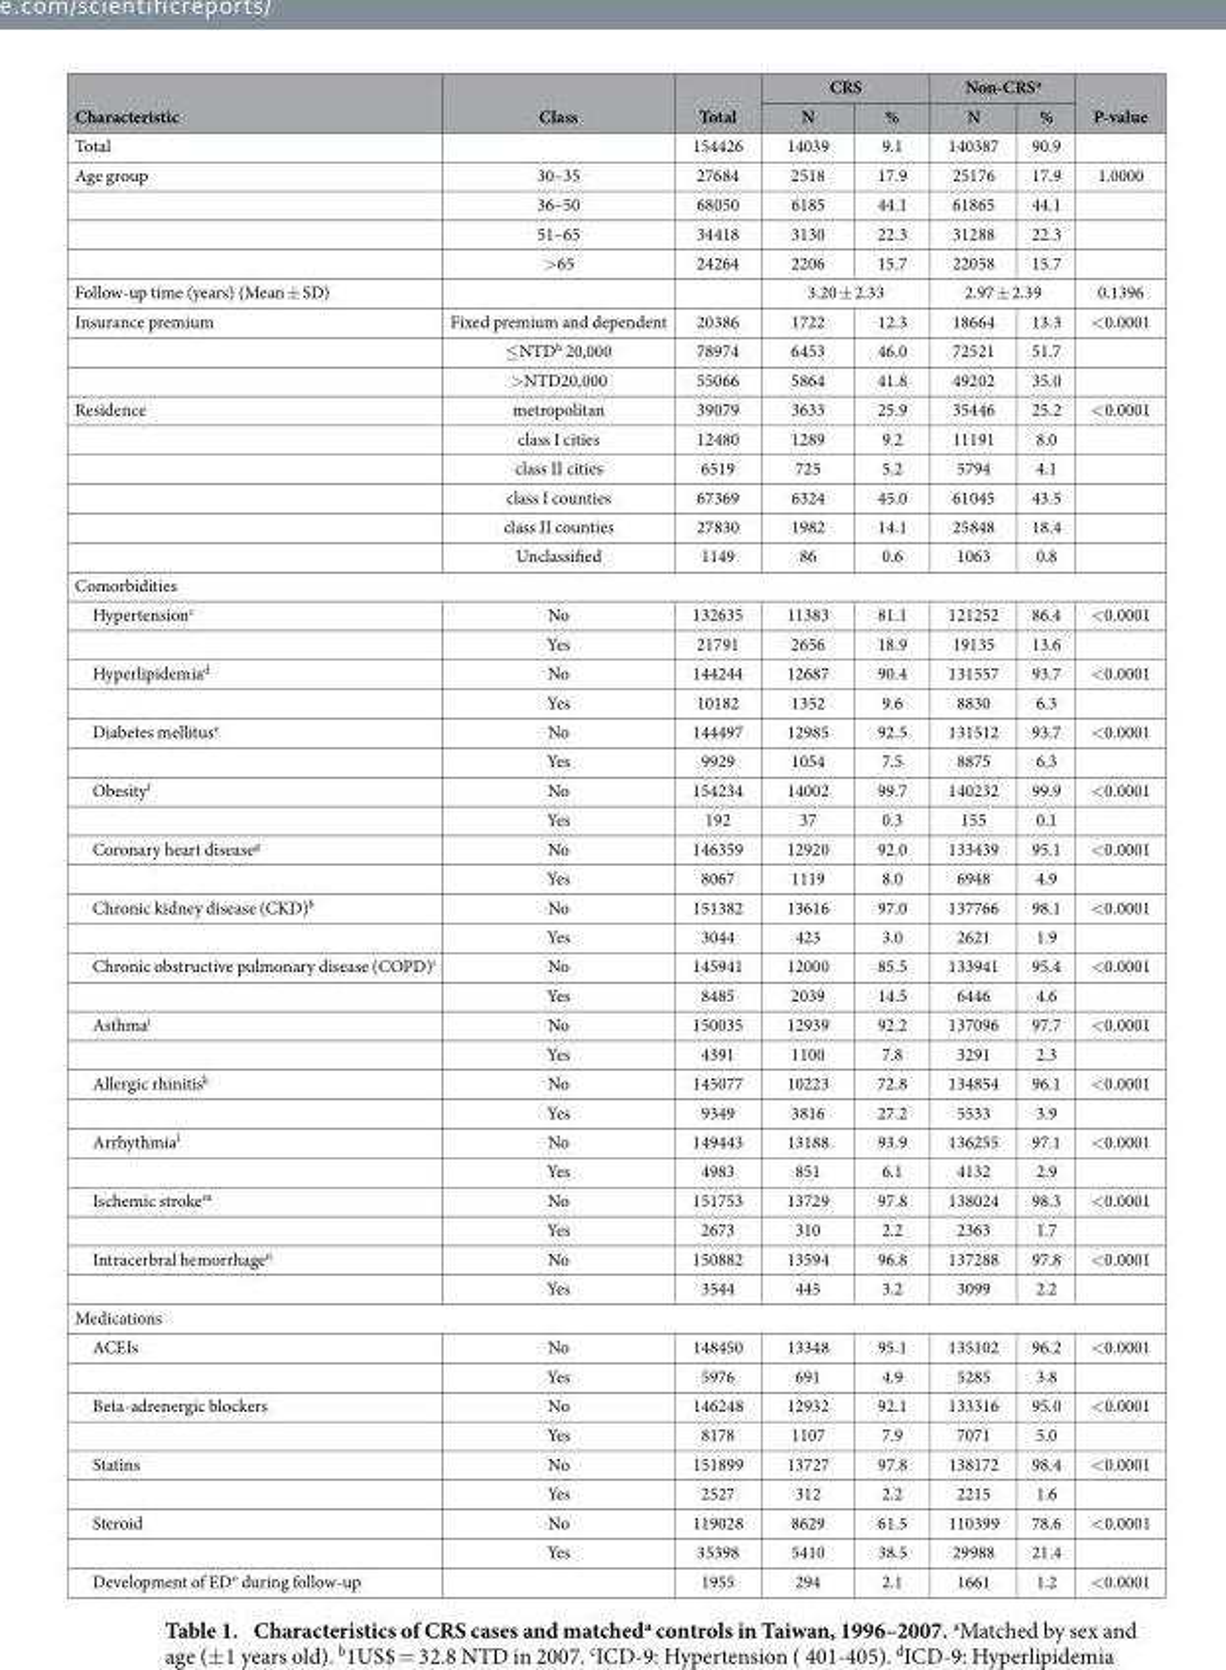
<table><thead><tr><td rowspan="2">Characteristic</td><td rowspan="2">Class</td><td rowspan="2">Total</td><td colspan="2">CRS</td><td colspan="2">Non-CRS<sup>a</sup></td><td rowspan="2">P-value</td></tr><tr><td>N</td><td>%</td><td>N</td><td>%</td></tr></thead><tbody><tr><td>Total</td><td></td><td>154426</td><td>14039</td><td>9.1</td><td>140387</td><td>90.9</td><td></td></tr><tr><td rowspan="4">Age group</td><td>30–35</td><td>27684</td><td>2518</td><td>17.9</td><td>25176</td><td>17.9</td><td>1.0000</td></tr><tr><td>36–50</td><td>68050</td><td>6185</td><td>44.1</td><td>61865</td><td>44.1</td><td></td></tr><tr><td>51–65</td><td>34418</td><td>3130</td><td>22.3</td><td>31288</td><td>22.3</td><td></td></tr><tr><td>&gt; 65</td><td>24264</td><td>2206</td><td>15.7</td><td>22058</td><td>15.7</td><td></td></tr><tr><td>Follow-up time (years) (Mean ± SD)</td><td></td><td></td><td colspan="2">3.20 ± 2.33</td><td colspan="2">2.97 ± 2.39</td><td>0.1396</td></tr><tr><td rowspan="3">Insurance premium</td><td>Fixed premium and dependent</td><td>20386</td><td>1722</td><td>12.3</td><td>18664</td><td>13.3</td><td>&lt; 0.0001</td></tr><tr><td>≤ NTD<sup>b</sup> 20,000</td><td>78974</td><td>6453</td><td>46.0</td><td>72521</td><td>51.7</td><td></td></tr><tr><td>&gt; NTD20,000</td><td>55066</td><td>5864</td><td>41.8</td><td>49202</td><td>35.0</td><td></td></tr><tr><td rowspan="6">Residence</td><td>metropolitan</td><td>39079</td><td>3633</td><td>25.9</td><td>35446</td><td>25.2</td><td>&lt; 0.0001</td></tr><tr><td>class I cities</td><td>12480</td><td>1289</td><td>9.2</td><td>11191</td><td>8.0</td><td></td></tr><tr><td>class II cities</td><td>6519</td><td>725</td><td>5.2</td><td>5794</td><td>4.1</td><td></td></tr><tr><td>class I counties</td><td>67369</td><td>6324</td><td>45.0</td><td>61045</td><td>43.5</td><td></td></tr><tr><td>class II counties</td><td>27830</td><td>1982</td><td>14.1</td><td>25848</td><td>18.4</td><td></td></tr><tr><td>Unclassified</td><td>1149</td><td>86</td><td>0.6</td><td>1063</td><td>0.8</td><td></td></tr><tr><td colspan="8">Comorbidities</td></tr><tr><td rowspan="2">Hypertension<sup>c</sup></td><td>No</td><td>132635</td><td>11383</td><td>81.1</td><td>121252</td><td>86.4</td><td>&lt; 0.0001</td></tr><tr><td>Yes</td><td>21791</td><td>2656</td><td>18.9</td><td>19135</td><td>13.6</td><td></td></tr><tr><td rowspan="2">Hyperlipidemia<sup>d</sup></td><td>No</td><td>144244</td><td>12687</td><td>90.4</td><td>131557</td><td>93.7</td><td>&lt; 0.0001</td></tr><tr><td>Yes</td><td>10182</td><td>1352</td><td>9.6</td><td>8830</td><td>6.3</td><td></td></tr><tr><td rowspan="2">Diabetes mellitus<sup>e</sup></td><td>No</td><td>144497</td><td>12985</td><td>92.5</td><td>131512</td><td>93.7</td><td>&lt; 0.0001</td></tr><tr><td>Yes</td><td>9929</td><td>1054</td><td>7.5</td><td>8875</td><td>6.3</td><td></td></tr><tr><td rowspan="2">Obesity<sup>f</sup></td><td>No</td><td>154234</td><td>14002</td><td>99.7</td><td>140232</td><td>99.9</td><td>&lt; 0.0001</td></tr><tr><td>Yes</td><td>192</td><td>37</td><td>0.3</td><td>155</td><td>0.1</td><td></td></tr><tr><td rowspan="2">Coronary heart disease<sup>g</sup></td><td>No</td><td>146359</td><td>12920</td><td>92.0</td><td>133439</td><td>95.1</td><td>&lt; 0.0001</td></tr><tr><td>Yes</td><td>8067</td><td>1119</td><td>8.0</td><td>6948</td><td>4.9</td><td></td></tr><tr><td rowspan="2">Chronic kidney disease (CKD)<sup>h</sup></td><td>No</td><td>151382</td><td>13616</td><td>97.0</td><td>137766</td><td>98.1</td><td>&lt; 0.0001</td></tr><tr><td>Yes</td><td>3044</td><td>423</td><td>3.0</td><td>2621</td><td>1.9</td><td></td></tr><tr><td rowspan="2">Chronic obstructive pulmonary disease (COPD)<sup>i</sup></td><td>No</td><td>145941</td><td>12000</td><td>85.5</td><td>133941</td><td>95.4</td><td>&lt; 0.0001</td></tr><tr><td>Yes</td><td>8485</td><td>2039</td><td>14.5</td><td>6446</td><td>4.6</td><td></td></tr><tr><td rowspan="2">Asthma<sup>j</sup></td><td>No</td><td>150035</td><td>12939</td><td>92.2</td><td>137096</td><td>97.7</td><td>&lt; 0.0001</td></tr><tr><td>Yes</td><td>4391</td><td>1100</td><td>7.8</td><td>3291</td><td>2.3</td><td></td></tr><tr><td rowspan="2">Allergic rhinitisk</td><td>No</td><td>145077</td><td>10223</td><td>72.8</td><td>134854</td><td>96.1</td><td>&lt; 0.0001</td></tr><tr><td>Yes</td><td>9349</td><td>3816</td><td>27.2</td><td>5533</td><td>3.9</td><td></td></tr><tr><td rowspan="2">Arrhythmia<sup>l</sup></td><td>No</td><td>149443</td><td>13188</td><td>93.9</td><td>136255</td><td>97.1</td><td>&lt; 0.0001</td></tr><tr><td>Yes</td><td>4983</td><td>851</td><td>6.1</td><td>4132</td><td>2.9</td><td></td></tr><tr><td rowspan="2">Ischemic stroke<sup>m</sup></td><td>No</td><td>151753</td><td>13729</td><td>97.8</td><td>138024</td><td>98.3</td><td>&lt; 0.0001</td></tr><tr><td>Yes</td><td>2673</td><td>310</td><td>2.2</td><td>2363</td><td>1.7</td><td></td></tr><tr><td rowspan="2">Intracerbral hemorrhage<sup>n</sup></td><td>No</td><td>150882</td><td>13594</td><td>96.8</td><td>137288</td><td>97.8</td><td>&lt; 0.0001</td></tr><tr><td>Yes</td><td>3544</td><td>445</td><td>3.2</td><td>3099</td><td>2.2</td><td></td></tr><tr><td colspan="8">Medications</td></tr><tr><td rowspan="2">ACEIs</td><td>No</td><td>148450</td><td>13348</td><td>95.1</td><td>135102</td><td>96.2</td><td>&lt; 0.0001</td></tr><tr><td>Yes</td><td>5976</td><td>691</td><td>4.9</td><td>5285</td><td>3.8</td><td></td></tr><tr><td rowspan="2">Beta-adrenergic blockers</td><td>No</td><td>146248</td><td>12932</td><td>92.1</td><td>133316</td><td>95.0</td><td>&lt; 0.0001</td></tr><tr><td>Yes</td><td>8178</td><td>1107</td><td>7.9</td><td>7071</td><td>5.0</td><td></td></tr><tr><td rowspan="2">Statins</td><td>No</td><td>151899</td><td>13727</td><td>97.8</td><td>138172</td><td>98.4</td><td>&lt; 0.0001</td></tr><tr><td>Yes</td><td>2527</td><td>312</td><td>2.2</td><td>2215</td><td>1.6</td><td></td></tr><tr><td rowspan="2">Steroid</td><td>No</td><td>119028</td><td>8629</td><td>61.5</td><td>110399</td><td>78.6</td><td>&lt; 0.0001</td></tr><tr><td>Yes</td><td>35398</td><td>5410</td><td>38.5</td><td>29988</td><td>21.4</td><td></td></tr><tr><td>Development of ED<sup>o</sup> during follow-up</td><td></td><td>1955</td><td>294</td><td>2.1</td><td>1661</td><td>1.2</td><td>&lt; 0.0001</td></tr></tbody></table>